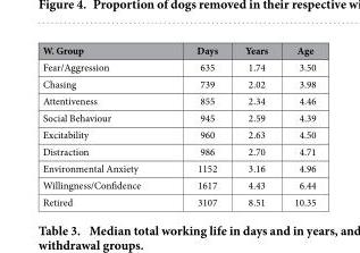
<table><thead><tr><td>W. Group</td><td>Days</td><td>Years</td><td>Age</td></tr></thead><tbody><tr><td>Fear/Aggression</td><td>635</td><td>1.74</td><td>3.50</td></tr><tr><td>Chasing</td><td>739</td><td>2.02</td><td>3.98</td></tr><tr><td>Attentiveness</td><td>855</td><td>2.34</td><td>4.46</td></tr><tr><td>Social Behaviour</td><td>945</td><td>2.59</td><td>4.39</td></tr><tr><td>Excitability</td><td>960</td><td>2.63</td><td>4.50</td></tr><tr><td>Distraction</td><td>986</td><td>2.70</td><td>4.71</td></tr><tr><td>Environmental Anxiety</td><td>1152</td><td>3.16</td><td>4.96</td></tr><tr><td>Willingness/Confidence</td><td>1617</td><td>4.43</td><td>6.44</td></tr><tr><td>Retired</td><td>3107</td><td>8.51</td><td>10.35</td></tr></tbody></table>